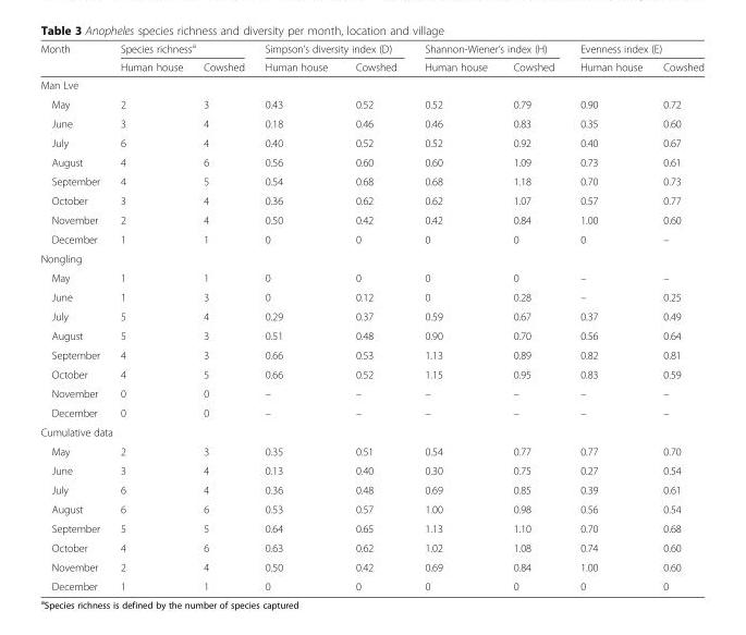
<table><thead><tr><td rowspan="2">Month</td><td colspan="2">Species richness<sup>a</sup></td><td colspan="2">Simpson’s diversity index (D)</td><td colspan="2">Shannon-Wiener’s index (H)</td><td colspan="2">Evenness index (E)</td></tr><tr><td>Human house</td><td>Cowshed</td><td>Human house</td><td>Cowshed</td><td>Human house</td><td>Cowshed</td><td>Human house</td><td>Cowshed</td></tr></thead><tbody><tr><td colspan="9">Man Lve</td></tr><tr><td>May</td><td>2</td><td>3</td><td>0.43</td><td>0.52</td><td>0.52</td><td>0.79</td><td>0.90</td><td>0.72</td></tr><tr><td>June</td><td>3</td><td>4</td><td>0.18</td><td>0.46</td><td>0.46</td><td>0.83</td><td>0.35</td><td>0.60</td></tr><tr><td>July</td><td>6</td><td>4</td><td>0.40</td><td>0.52</td><td>0.52</td><td>0.92</td><td>0.40</td><td>0.67</td></tr><tr><td>August</td><td>4</td><td>6</td><td>0.56</td><td>0.60</td><td>0.60</td><td>1.09</td><td>0.73</td><td>0.61</td></tr><tr><td>September</td><td>4</td><td>5</td><td>0.54</td><td>0.68</td><td>0.68</td><td>1.18</td><td>0.70</td><td>0.73</td></tr><tr><td>October</td><td>3</td><td>4</td><td>0.36</td><td>0.62</td><td>0.62</td><td>1.07</td><td>0.57</td><td>0.77</td></tr><tr><td>November</td><td>2</td><td>4</td><td>0.50</td><td>0.42</td><td>0.42</td><td>0.84</td><td>1.00</td><td>0.60</td></tr><tr><td>December</td><td>1</td><td>1</td><td>0</td><td>0</td><td>0</td><td>0</td><td>0</td><td>–</td></tr><tr><td colspan="9">Nongling</td></tr><tr><td>May</td><td>1</td><td>1</td><td>0</td><td>0</td><td>0</td><td>0</td><td>–</td><td>–</td></tr><tr><td>June</td><td>1</td><td>3</td><td>0</td><td>0.12</td><td>0</td><td>0.28</td><td>–</td><td>0.25</td></tr><tr><td>July</td><td>5</td><td>4</td><td>0.29</td><td>0.37</td><td>0.59</td><td>0.67</td><td>0.37</td><td>0.49</td></tr><tr><td>August</td><td>5</td><td>3</td><td>0.51</td><td>0.48</td><td>0.90</td><td>0.70</td><td>0.56</td><td>0.64</td></tr><tr><td>September</td><td>4</td><td>3</td><td>0.66</td><td>0.53</td><td>1.13</td><td>0.89</td><td>0.82</td><td>0.81</td></tr><tr><td>October</td><td>4</td><td>5</td><td>0.66</td><td>0.52</td><td>1.15</td><td>0.95</td><td>0.83</td><td>0.59</td></tr><tr><td>November</td><td>0</td><td>0</td><td>–</td><td>–</td><td>–</td><td>–</td><td>–</td><td>–</td></tr><tr><td>December</td><td>0</td><td>0</td><td>–</td><td>–</td><td>–</td><td>–</td><td>–</td><td>–</td></tr><tr><td colspan="9">Cumulative data</td></tr><tr><td>May</td><td>2</td><td>3</td><td>0.35</td><td>0.51</td><td>0.54</td><td>0.77</td><td>0.77</td><td>0.70</td></tr><tr><td>June</td><td>3</td><td>4</td><td>0.13</td><td>0.40</td><td>0.30</td><td>0.75</td><td>0.27</td><td>0.54</td></tr><tr><td>July</td><td>6</td><td>4</td><td>0.36</td><td>0.48</td><td>0.69</td><td>0.85</td><td>0.39</td><td>0.61</td></tr><tr><td>August</td><td>6</td><td>6</td><td>0.53</td><td>0.57</td><td>1.00</td><td>0.98</td><td>0.56</td><td>0.54</td></tr><tr><td>September</td><td>5</td><td>5</td><td>0.64</td><td>0.65</td><td>1.13</td><td>1.10</td><td>0.70</td><td>0.68</td></tr><tr><td>October</td><td>4</td><td>6</td><td>0.63</td><td>0.62</td><td>1.02</td><td>1.08</td><td>0.74</td><td>0.60</td></tr><tr><td>November</td><td>2</td><td>4</td><td>0.50</td><td>0.42</td><td>0.69</td><td>0.84</td><td>1.00</td><td>0.60</td></tr><tr><td>December</td><td>1</td><td>1</td><td>0</td><td>0</td><td>0</td><td>0</td><td>0</td><td>0</td></tr></tbody></table>